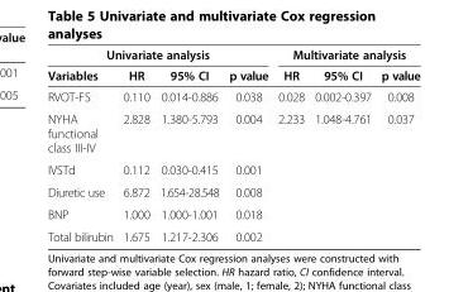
<table><thead><tr><td colspan="4">Univariate analysis</td><td colspan="3">Multivariate analysis</td></tr><tr><td>Variables</td><td>HR</td><td>95% CI</td><td>p value</td><td>HR</td><td>95% CI</td><td>p value</td></tr></thead><tbody><tr><td>RVOT-FS</td><td>0.110</td><td>0.014-0.886</td><td>0.038</td><td>0.028</td><td>0.002-0.397</td><td>0.008</td></tr><tr><td>NYHA functional class III-IV</td><td>2.828</td><td>1.380-5.793</td><td>0.004</td><td>2.233</td><td>1.048-4.761</td><td>0.037</td></tr><tr><td>IVSTd</td><td>0.112</td><td>0.030-0.415</td><td>0.001</td><td></td><td></td><td></td></tr><tr><td>Diuretic use</td><td>6.872</td><td>1.654-28.548</td><td>0.008</td><td></td><td></td><td></td></tr><tr><td>BNP</td><td>1.000</td><td>1.000-1.001</td><td>0.018</td><td></td><td></td><td></td></tr><tr><td>Total bilirubin</td><td>1.675</td><td>1.217-2.306</td><td>0.002</td><td></td><td></td><td></td></tr></tbody></table>